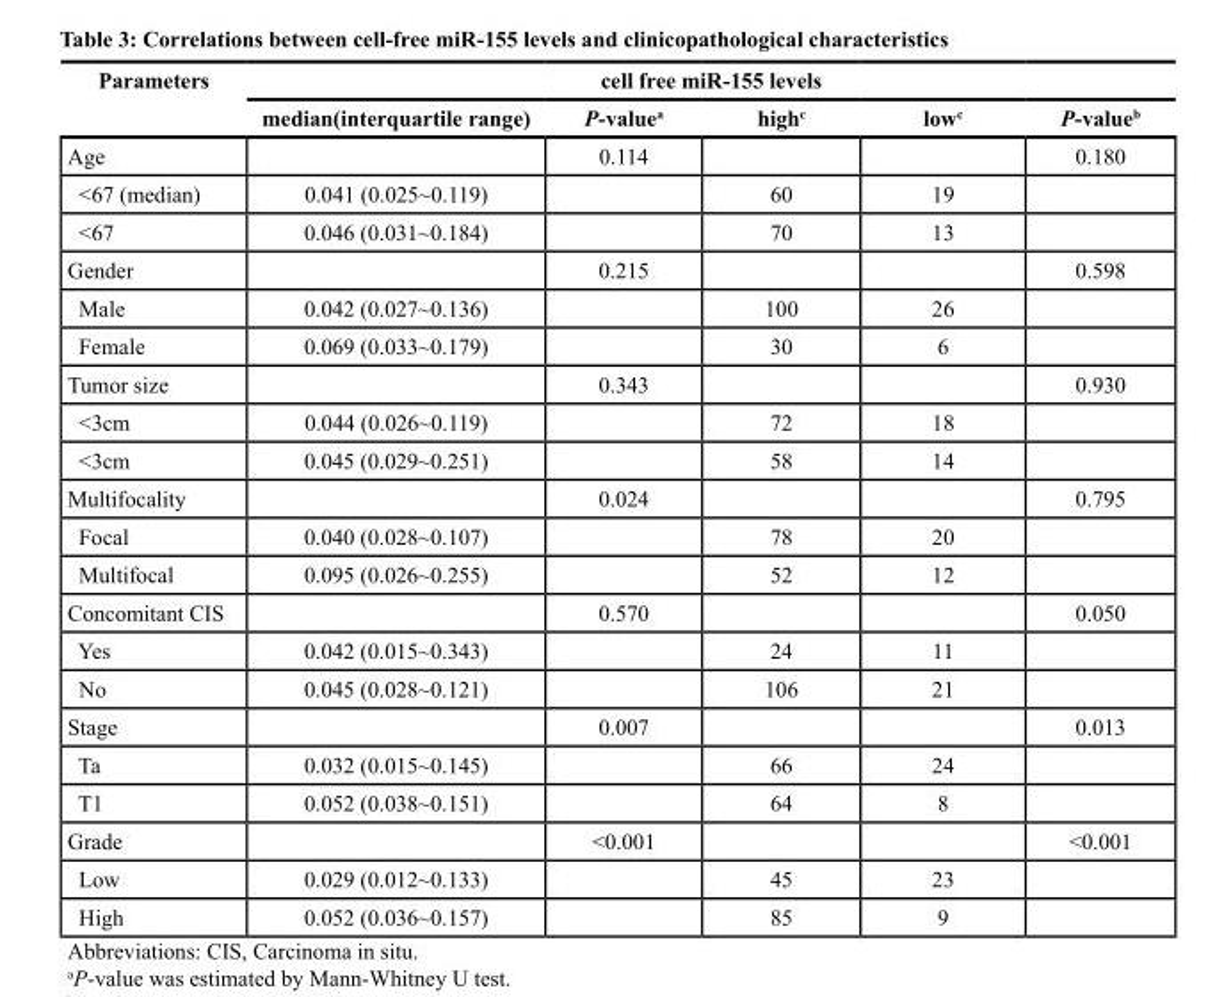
<table><thead><tr><td rowspan="2">Parameters</td><td colspan="5">cell free miR-155 levels</td></tr><tr><td>median(interquartile range)</td><td>P-value<sup>a</sup></td><td>high<sup>c</sup></td><td>low<sup>c</sup></td><td>P-value<sup>b</sup></td></tr></thead><tbody><tr><td>Age</td><td></td><td>0.114</td><td></td><td></td><td>0.180</td></tr><tr><td>&lt;67 (median)</td><td>0.041 (0.025~0.119)</td><td></td><td>60</td><td>19</td><td></td></tr><tr><td>&lt;67</td><td>0.046 (0.031~0.184)</td><td></td><td>70</td><td>13</td><td></td></tr><tr><td>Gender</td><td></td><td>0.215</td><td></td><td></td><td>0.598</td></tr><tr><td>Male</td><td>0.042 (0.027~0.136)</td><td></td><td>100</td><td>26</td><td></td></tr><tr><td>Female</td><td>0.069 (0.033~0.179)</td><td></td><td>30</td><td>6</td><td></td></tr><tr><td>Tumor size</td><td></td><td>0.343</td><td></td><td></td><td>0.930</td></tr><tr><td>&lt;3cm</td><td>0.044 (0.026~0.119)</td><td></td><td>72</td><td>18</td><td></td></tr><tr><td>&lt;3cm</td><td>0.045 (0.029~0.251)</td><td></td><td>58</td><td>14</td><td></td></tr><tr><td>Multifocality</td><td></td><td>0.024</td><td></td><td></td><td>0.795</td></tr><tr><td>Focal</td><td>0.040 (0.028~0.107)</td><td></td><td>78</td><td>20</td><td></td></tr><tr><td>Multifocal</td><td>0.095 (0.026~0.255)</td><td></td><td>52</td><td>12</td><td></td></tr><tr><td>Concomitant CIS</td><td></td><td>0.570</td><td></td><td></td><td>0.050</td></tr><tr><td>Yes</td><td>0.042 (0.015~0.343)</td><td></td><td>24</td><td>11</td><td></td></tr><tr><td>No</td><td>0.045 (0.028~0.121)</td><td></td><td>106</td><td>21</td><td></td></tr><tr><td>Stage</td><td></td><td>0.007</td><td></td><td></td><td>0.013</td></tr><tr><td>Ta</td><td>0.032 (0.015~0.145)</td><td></td><td>66</td><td>24</td><td></td></tr><tr><td>T1</td><td>0.052 (0.038~0.151)</td><td></td><td>64</td><td>8</td><td></td></tr><tr><td>Grade</td><td></td><td>&lt;0.001</td><td></td><td></td><td>&lt;0.001</td></tr><tr><td>Low</td><td>0.029 (0.012~0.133)</td><td></td><td>45</td><td>23</td><td></td></tr><tr><td>High</td><td>0.052 (0.036~0.157)</td><td></td><td>85</td><td>9</td><td></td></tr></tbody></table>